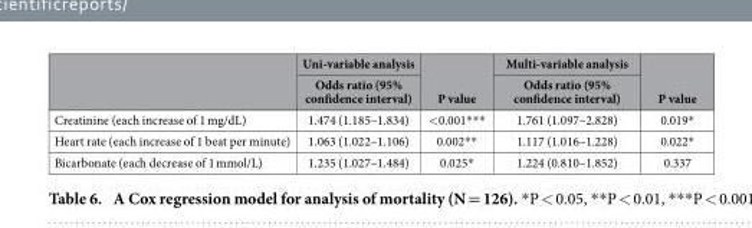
<table><thead><tr><td rowspan="2"></td><td rowspan="2">Uni-variable analysis Odds ratio (95% confidence interval)</td><td rowspan="2">P value</td><td rowspan="2">Multi-variable analysis Odds ratio (95% confidence interval)</td><td rowspan="2">P value</td></tr><tr></tr></thead><tbody><tr><td>Creatinine (each increase of 1 mg/dL)</td><td>1.474 (1.185–1.834)</td><td>&lt; 0.001* * *</td><td>1.761 (1.097–2.828)</td><td>0.019*</td></tr><tr><td>Heart rate (each increase of 1 beat per minute)</td><td>1.063 (1.022–1.106)</td><td>0.002* *</td><td>1.117 (1.016–1.228)</td><td>0.022*</td></tr><tr><td>Bicarbonate (each decrease of 1 mmol/L)</td><td>1.235 (1.027–1.484)</td><td>0.025*</td><td>1.224 (0.810–1.852)</td><td>0.337</td></tr></tbody></table>